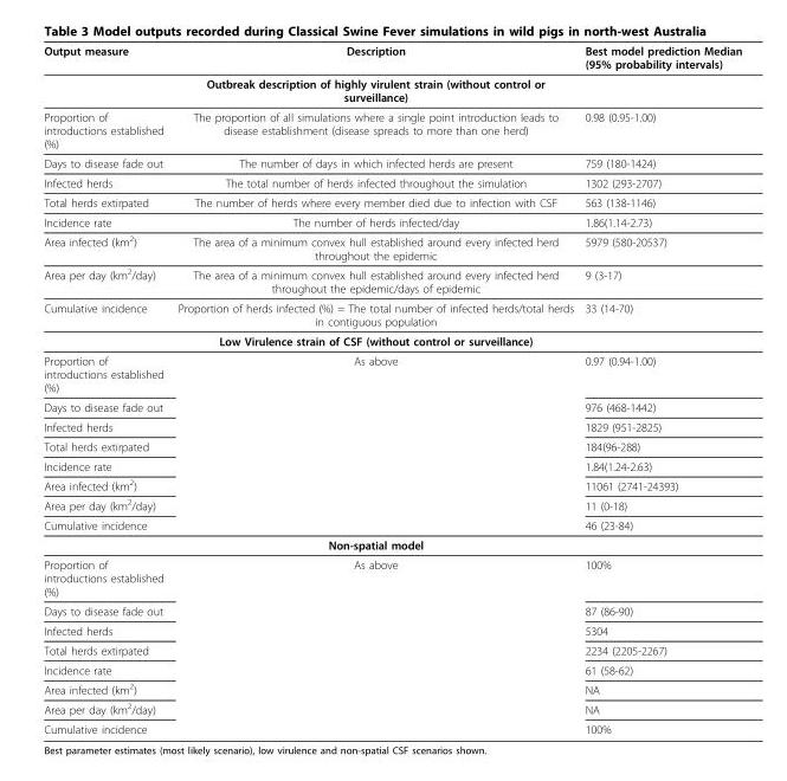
<table><thead><tr><td>Output measure</td><td>Description</td><td>Best model prediction Median (95% probability intervals)</td></tr></thead><tbody><tr><td></td><td>Outbreak description of highly virulent strain (without control or surveillance)</td><td></td></tr><tr><td>Proportion of introductions established (%)</td><td>The proportion of all simulations where a single point introduction leads to disease establishment (disease spreads to more than one herd)</td><td>0.98 (0.95-1.00)</td></tr><tr><td>Days to disease fade out</td><td>The number of days in which infected herds are present</td><td>759 (180-1424)</td></tr><tr><td>Infected herds</td><td>The total number of herds infected throughout the simulation</td><td>1302 (293-2707)</td></tr><tr><td>Total herds extirpated</td><td>The number of herds where every member died due to infection with CSF</td><td>563 (138-1146)</td></tr><tr><td>Incidence rate</td><td>The number of herds infected/day</td><td>1.86(1.14-2.73)</td></tr><tr><td>Area infected (km<sup>2</sup>)</td><td>The area of a minimum convex hull established around every infected herd throughout the epidemic</td><td>5979 (580-20537)</td></tr><tr><td>Area per day (km<sup>2</sup>/day)</td><td>The area of a minimum convex hull established around every infected herd throughout the epidemic/days of epidemic</td><td>9 (3-17)</td></tr><tr><td rowspan="2">Cumulative incidence</td><td>Proportion of herds infected (%) = The total number of infected herds/total herds in contiguous population</td><td>33 (14-70)</td></tr><tr><td>Low Virulence strain of CSF (without control or surveillance)</td><td></td></tr><tr><td>Proportion of introductions established (%)</td><td>As above</td><td>0.97 (0.94-1.00)</td></tr><tr><td>Days to disease fade out</td><td></td><td>976 (468-1442)</td></tr><tr><td>Infected herds</td><td></td><td>1829 (951-2825)</td></tr><tr><td>Total herds extirpated</td><td></td><td>184(96-288)</td></tr><tr><td>Incidence rate</td><td></td><td>1.84(1.24-2.63)</td></tr><tr><td>Area infected (km<sup>2</sup>)</td><td></td><td>11061 (2741-24393)</td></tr><tr><td>Area per day (km<sup>2</sup>/day)</td><td></td><td>11 (0-18)</td></tr><tr><td rowspan="2">Cumulative incidence</td><td></td><td>46 (23-84)</td></tr><tr><td>Non-spatial model</td><td></td></tr><tr><td>Proportion of introductions established (%)</td><td>As above</td><td>100%</td></tr><tr><td>Days to disease fade out</td><td></td><td>87 (86-90)</td></tr><tr><td>Infected herds</td><td></td><td>5304</td></tr><tr><td>Total herds extirpated</td><td></td><td>2234 (2205-2267)</td></tr><tr><td>Incidence rate</td><td></td><td>61 (58-62)</td></tr><tr><td>Area infected (km<sup>2</sup>)</td><td></td><td>NA</td></tr><tr><td>Area per day (km<sup>2</sup>/day)</td><td></td><td>NA</td></tr><tr><td>Cumulative incidence</td><td></td><td>100%</td></tr></tbody></table>